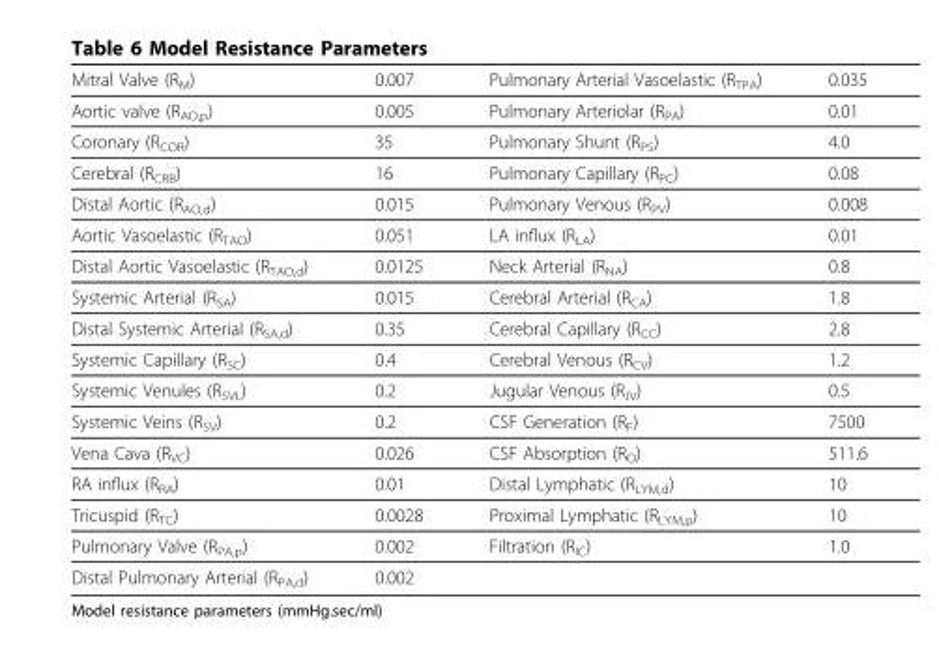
<table><thead><tr><td>Mitral Valve (R<sub>M</sub>)</td><td>0.007</td><td>Pulmonary Arterial Vasoelastic (R<sub>TPA</sub>)</td><td>0.035</td></tr></thead><tbody><tr><td>Aortic valve (R<sub>AO,p</sub>)</td><td>0.005</td><td>Pulmonary Arteriolar (R<sub>PA</sub>)</td><td>0.01</td></tr><tr><td>Coronary (R<sub>COR</sub>)</td><td>35</td><td>Pulmonary Shunt (R<sub>PS</sub>)</td><td>4.0</td></tr><tr><td>Cerebral (R<sub>CRB</sub>)</td><td>16</td><td>Pulmonary Capillary (R<sub>PC</sub>)</td><td>0.08</td></tr><tr><td>Distal Aortic (R<sub>AO,d</sub>)</td><td>0.015</td><td>Pulmonary Venous (R<sub>PV</sub>)</td><td>0.008</td></tr><tr><td>Aortic Vasoelastic (R<sub>TAO</sub>)</td><td>0.051</td><td>LA influx (R<sub>LA</sub>)</td><td>0.01</td></tr><tr><td>Distal Aortic Vasoelastic (R<sub>TAO,d</sub>)</td><td>0.0125</td><td>Neck Arterial (R<sub>NA</sub>)</td><td>0.8</td></tr><tr><td>Systemic Arterial (R<sub>SA</sub>)</td><td>0.015</td><td>Cerebral Arterial (R<sub>CA</sub>)</td><td>1.8</td></tr><tr><td>Distal Systemic Arterial (R<sub>SA,d</sub>)</td><td>0.35</td><td>Cerebral Capillary (R<sub>CC</sub>)</td><td>2.8</td></tr><tr><td>Systemic Capillary (R<sub>SC</sub>)</td><td>0.4</td><td>Cerebral Venous (R<sub>CV</sub>)</td><td>1.2</td></tr><tr><td>Systemic Venules (R<sub>SVL</sub>)</td><td>0.2</td><td>Jugular Venous (R<sub>JV</sub>)</td><td>0.5</td></tr><tr><td>Systemic Veins (R<sub>SV</sub>)</td><td>0.2</td><td>CSF Generation (R<sub>F</sub>)</td><td>7500</td></tr><tr><td>Vena Cava (R<sub>VC</sub>)</td><td>0.026</td><td>CSF Absorption (R<sub>O</sub>)</td><td>511.6</td></tr><tr><td>RA influx (R<sub>RA</sub>)</td><td>0.01</td><td>Distal Lymphatic (R<sub>LYM,d</sub>)</td><td>10</td></tr><tr><td>Tricuspid (R<sub>TC</sub>)</td><td>0.0028</td><td>Proximal Lymphatic (R<sub>LYM,p</sub>)</td><td>10</td></tr><tr><td>Pulmonary Valve (R<sub>PA,p</sub>)</td><td>0.002</td><td>Filtration (R<sub>IC</sub>)</td><td>1.0</td></tr><tr><td>Distal Pulmonary Arterial (R<sub>PA,d</sub>)</td><td>0.002</td><td></td><td></td></tr></tbody></table>